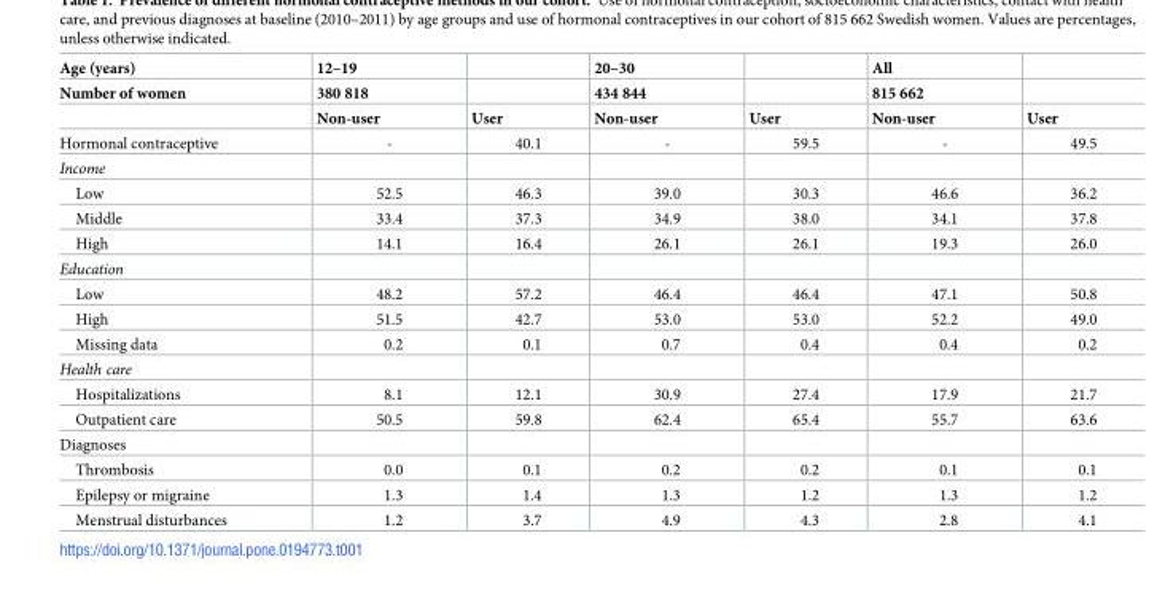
<table><thead><tr><td rowspan="3">Age (years) Number of women</td><td rowspan="3">12–19 380 818 Non-user</td><td rowspan="3">User</td><td rowspan="3">20–30 434 844 Non-user</td><td rowspan="3">User</td><td rowspan="3">All 815 662 Non-user</td><td rowspan="3">User</td></tr><tr></tr><tr></tr></thead><tbody><tr><td>Hormonal contraceptive</td><td>-</td><td>40.1</td><td>-</td><td>59.5</td><td>-</td><td>49.5</td></tr><tr><td colspan="7">Income</td></tr><tr><td>Low</td><td>52.5</td><td>46.3</td><td>39.0</td><td>30.3</td><td>46.6</td><td>36.2</td></tr><tr><td>Middle</td><td>33.4</td><td>37.3</td><td>34.9</td><td>38.0</td><td>34.1</td><td>37.8</td></tr><tr><td>High</td><td>14.1</td><td>16.4</td><td>26.1</td><td>26.1</td><td>19.3</td><td>26.0</td></tr><tr><td colspan="7">Education</td></tr><tr><td>Low</td><td>48.2</td><td>57.2</td><td>46.4</td><td>46.4</td><td>47.1</td><td>50.8</td></tr><tr><td>High</td><td>51.5</td><td>42.7</td><td>53.0</td><td>53.0</td><td>52.2</td><td>49.0</td></tr><tr><td>Missing data</td><td>0.2</td><td>0.1</td><td>0.7</td><td>0.4</td><td>0.4</td><td>0.2</td></tr><tr><td colspan="7">Health care</td></tr><tr><td>Hospitalizations</td><td>8.1</td><td>12.1</td><td>30.9</td><td>27.4</td><td>17.9</td><td>21.7</td></tr><tr><td>Outpatient care</td><td>50.5</td><td>59.8</td><td>62.4</td><td>65.4</td><td>55.7</td><td>63.6</td></tr><tr><td colspan="7">Diagnoses</td></tr><tr><td>Thrombosis</td><td>0.0</td><td>0.1</td><td>0.2</td><td>0.2</td><td>0.1</td><td>0.1</td></tr><tr><td>Epilepsy or migraine</td><td>1.3</td><td>1.4</td><td>1.3</td><td>1.2</td><td>1.3</td><td>1.2</td></tr><tr><td>Menstrual disturbances</td><td>1.2</td><td>3.7</td><td>4.9</td><td>4.3</td><td>2.8</td><td>4.1</td></tr></tbody></table>